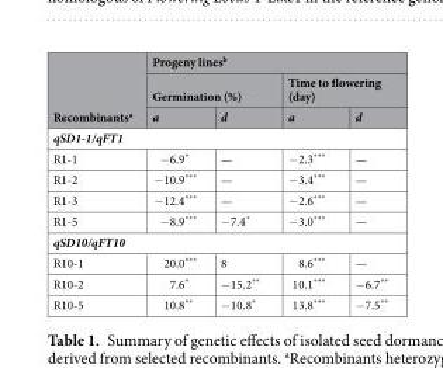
<table><thead><tr><td rowspan="3">Recombinants<sup>a</sup></td><td colspan="4">Progeny lines<sup>b</sup></td></tr><tr><td colspan="2">Germination (%)</td><td colspan="2">Time to flowering (day)</td></tr><tr><td>a</td><td>d</td><td>a</td><td>d</td></tr></thead><tbody><tr><td colspan="5">qSD1-1/qFT1</td></tr><tr><td>R1-1</td><td>−6.9*</td><td>—</td><td>−2.3***</td><td>—</td></tr><tr><td>R1-2</td><td>−10.9***</td><td>—</td><td>−3.4***</td><td>—</td></tr><tr><td>R1-3</td><td>−12.4***</td><td>—</td><td>−2.6***</td><td>—</td></tr><tr><td>R1-5</td><td>−8.9***</td><td>−7.4*</td><td>−3.0***</td><td>—</td></tr><tr><td colspan="5">qSD10/qFT10</td></tr><tr><td>R10-1</td><td>20.0***</td><td>8</td><td>8.6***</td><td>—</td></tr><tr><td>R10-2</td><td>7.6*</td><td>−15.2**</td><td>10.1***</td><td>−6.7**</td></tr><tr><td>R10-5</td><td>10.8**</td><td>−10.8*</td><td>13.8***</td><td>−7.5**</td></tr></tbody></table>